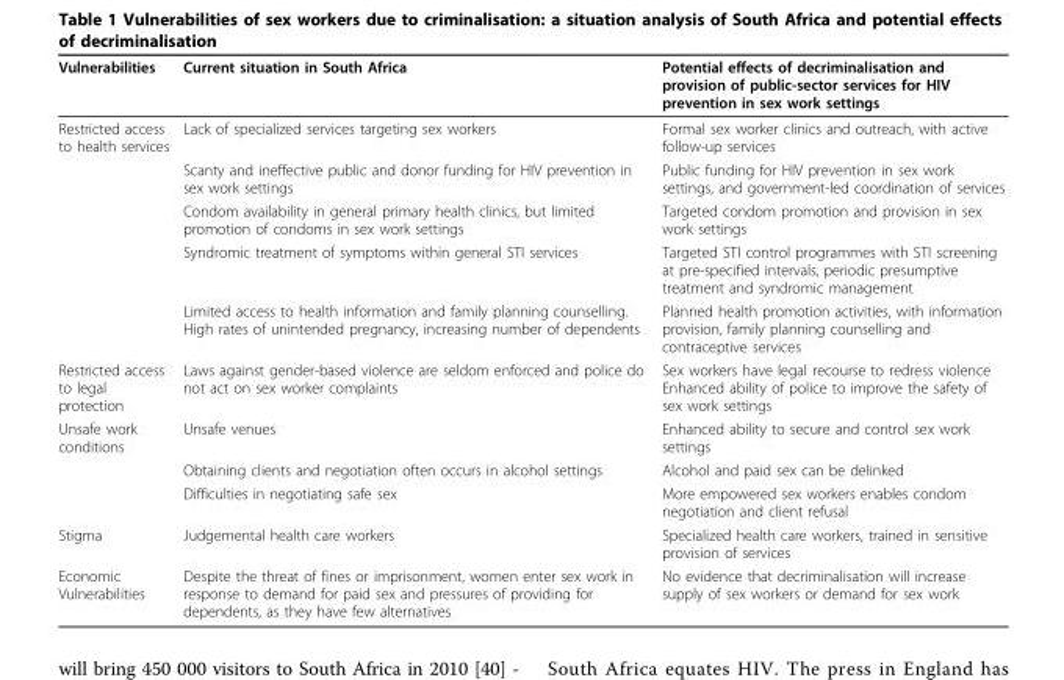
<table><thead><tr><td>Vulnerabilities</td><td>Current situation in South Africa</td><td>Potential effects of decriminalisation and provision of public-sector services for HIV prevention in sex work settings</td></tr></thead><tbody><tr><td rowspan="5">Restricted access to health services</td><td>Lack of specialized services targeting sex workers</td><td>Formal sex worker clinics and outreach, with active follow-up services</td></tr><tr><td>Scanty and ineffective public and donor funding for HIV prevention in sex work settings</td><td>Public funding for HIV prevention in sex work settings, and government-led coordination of services</td></tr><tr><td>Condom availability in general primary health clinics, but limited promotion of condoms in sex work settings</td><td>Targeted condom promotion and provision in sex work settings</td></tr><tr><td>Syndromic treatment of symptoms within general STI services</td><td>Targeted STI control programmes with STI screening at pre-specified intervals, periodic presumptive treatment and syndromic management</td></tr><tr><td>Limited access to health information and family planning counselling. High rates of unintended pregnancy, increasing number of dependents</td><td>Planned health promotion activities, with information provision, family planning counselling and contraceptive services</td></tr><tr><td>Restricted access to legal protection</td><td>Laws against gender-based violence are seldom enforced and police do not act on sex worker complaints</td><td>Sex workers have legal recourse to redress violence Enhanced ability of police to improve the safety of sex work settings</td></tr><tr><td rowspan="3">Unsafe work conditions</td><td>Unsafe venues</td><td>Enhanced ability to secure and control sex work settings</td></tr><tr><td>Obtaining clients and negotiation often occurs in alcohol settings</td><td>Alcohol and paid sex can be delinked</td></tr><tr><td>Difficulties in negotiating safe sex</td><td>More empowered sex workers enables condom negotiation and client refusal</td></tr><tr><td>Stigma</td><td>Judgemental health care workers</td><td>Specialized health care workers, trained in sensitive provision of services</td></tr><tr><td>Economic Vulnerabilities</td><td>Despite the threat of fines or imprisonment, women enter sex work in response to demand for paid sex and pressures of providing for dependents, as they have few alternatives</td><td>No evidence that decriminalisation will increase supply of sex workers or demand for sex work</td></tr></tbody></table>